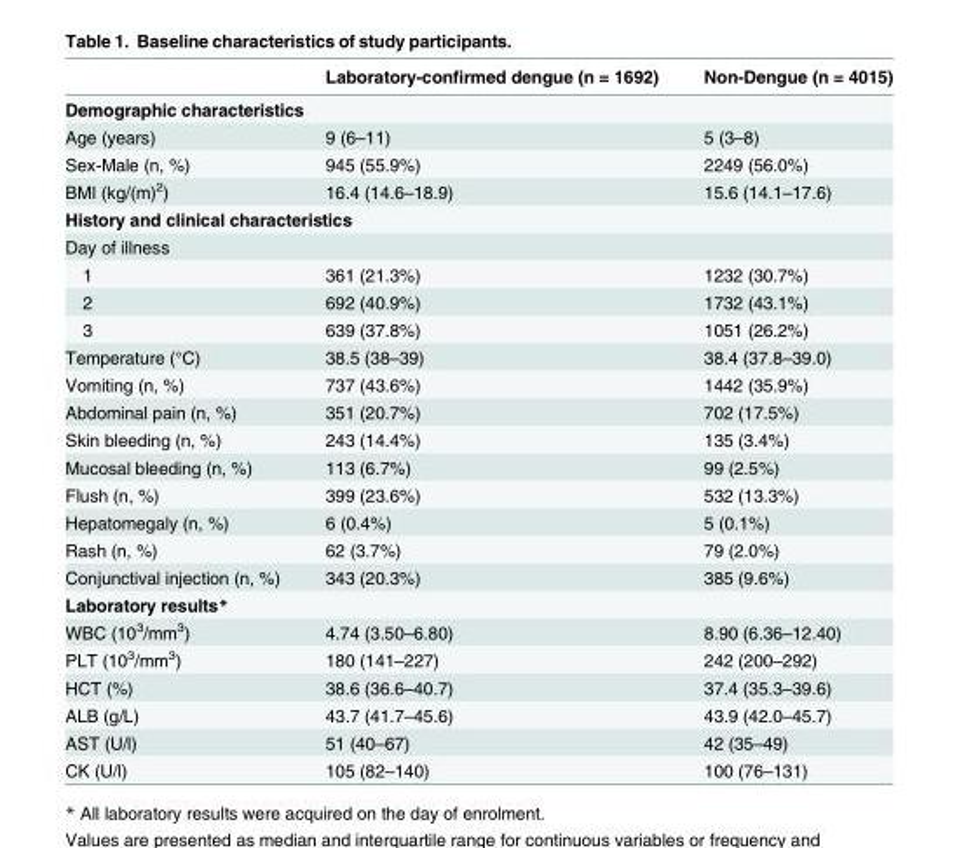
<table><thead><tr><td></td><td>Laboratory-confirmed dengue (n = 1692)</td><td>Non-Dengue (n = 4015)</td></tr></thead><tbody><tr><td colspan="3">Demographic characteristics</td></tr><tr><td>Age (years)</td><td>9 (6–11)</td><td>5 (3–8)</td></tr><tr><td>Sex-Male (n, %)</td><td>945 (55.9%)</td><td>2249 (56.0%)</td></tr><tr><td>BMI (kg/(m)<sup>2</sup>)</td><td>16.4 (14.6–18.9)</td><td>15.6 (14.1–17.6)</td></tr><tr><td colspan="3">History and clinical characteristics</td></tr><tr><td colspan="3">Day of illness</td></tr><tr><td>1</td><td>361 (21.3%)</td><td>1232 (30.7%)</td></tr><tr><td>2</td><td>692 (40.9%)</td><td>1732 (43.1%)</td></tr><tr><td>3</td><td>639 (37.8%)</td><td>1051 (26.2%)</td></tr><tr><td>Temperature (°C)</td><td>38.5 (38–39)</td><td>38.4 (37.8–39.0)</td></tr><tr><td>Vomiting (n, %)</td><td>737 (43.6%)</td><td>1442 (35.9%)</td></tr><tr><td>Abdominal pain (n, %)</td><td>351 (20.7%)</td><td>702 (17.5%)</td></tr><tr><td>Skin bleeding (n, %)</td><td>243 (14.4%)</td><td>135 (3.4%)</td></tr><tr><td>Mucosal bleeding (n, %)</td><td>113 (6.7%)</td><td>99 (2.5%)</td></tr><tr><td>Flush (n, %)</td><td>399 (23.6%)</td><td>532 (13.3%)</td></tr><tr><td>Hepatomegaly (n, %)</td><td>6 (0.4%)</td><td>5 (0.1%)</td></tr><tr><td>Rash (n, %)</td><td>62 (3.7%)</td><td>79 (2.0%)</td></tr><tr><td>Conjunctival injection (n, %)</td><td>343 (20.3%)</td><td>385 (9.6%)</td></tr><tr><td colspan="3">Laboratory results*</td></tr><tr><td>WBC (10<sup>3</sup>/mm<sup>3</sup>)</td><td>4.74 (3.50–6.80)</td><td>8.90 (6.36–12.40)</td></tr><tr><td>PLT (10<sup>3</sup>/mm<sup>3</sup>)</td><td>180 (141–227)</td><td>242 (200–292)</td></tr><tr><td>HCT (%)</td><td>38.6 (36.6–40.7)</td><td>37.4 (35.3–39.6)</td></tr><tr><td>ALB (g/L)</td><td>43.7 (41.7–45.6)</td><td>43.9 (42.0–45.7)</td></tr><tr><td>AST (U/l)</td><td>51 (40–67)</td><td>42 (35–49)</td></tr><tr><td>CK (U/l)</td><td>105 (82–140)</td><td>100 (76–131)</td></tr></tbody></table>